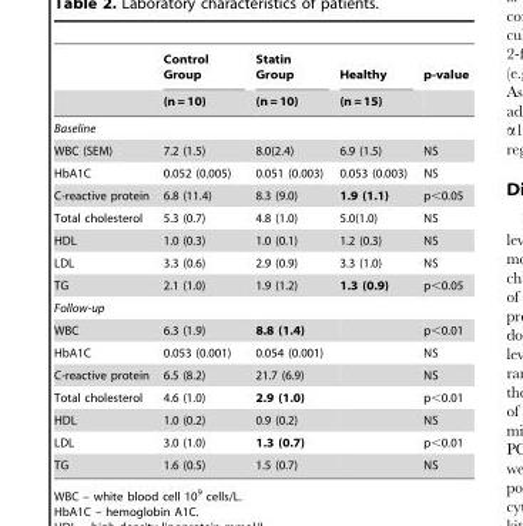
<table><thead><tr><td rowspan="2"></td><td rowspan="2">Control Group (n = 10)</td><td rowspan="2">Statin Group (n = 10)</td><td rowspan="2">Healthy (n = 15)</td><td rowspan="2">p-value</td></tr><tr></tr></thead><tbody><tr><td colspan="5">Baseline</td></tr><tr><td>WBC (SEM)</td><td>7.2 (1.5)</td><td>8.0(2.4)</td><td>6.9 (1.5)</td><td>NS</td></tr><tr><td>HbA1C</td><td>0.052 (0.005)</td><td>0.051 (0.003)</td><td>0.053 (0.003)</td><td>NS</td></tr><tr><td>C-reactive protein</td><td>6.8 (11.4)</td><td>8.3 (9.0)</td><td>1.9 (1.1)</td><td>p&lt;0.05</td></tr><tr><td>Total cholesterol</td><td>5.3 (0.7)</td><td>4.8 (1.0)</td><td>5.0(1.0)</td><td>NS</td></tr><tr><td>HDL</td><td>1.0 (0.3)</td><td>1.0 (0.1)</td><td>1.2 (0.3)</td><td>NS</td></tr><tr><td>LDL</td><td>3.3 (0.6)</td><td>2.9 (0.9)</td><td>3.3 (1.0)</td><td>NS</td></tr><tr><td>TG</td><td>2.1 (1.0)</td><td>1.9 (1.2)</td><td>1.3 (0.9)</td><td>p&lt;0.05</td></tr><tr><td colspan="5">Follow-up</td></tr><tr><td>WBC</td><td>6.3 (1.9)</td><td>8.8 (1.4)</td><td></td><td>p&lt;0.01</td></tr><tr><td>HbA1C</td><td>0.053 (0.001)</td><td>0.054 (0.001)</td><td></td><td>NS</td></tr><tr><td>C-reactive protein</td><td>6.5 (8.2)</td><td>21.7 (6.9)</td><td></td><td>NS</td></tr><tr><td>Total cholesterol</td><td>4.6 (1.0)</td><td>2.9 (1.0)</td><td></td><td>p&lt;0.01</td></tr><tr><td>HDL</td><td>1.0 (0.2)</td><td>0.9 (0.2)</td><td></td><td>NS</td></tr><tr><td>LDL</td><td>3.0 (1.0)</td><td>1.3 (0.7)</td><td></td><td>p&lt;0.01</td></tr><tr><td>TG</td><td>1.6 (0.5)</td><td>1.5 (0.7)</td><td></td><td>NS</td></tr></tbody></table>